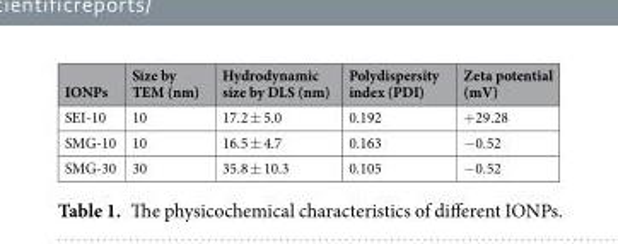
<table><thead><tr><td>IONPs</td><td>Size by TEM (nm)</td><td>Hydrodynamic size by DLS (nm)</td><td>Polydispersity index (PDI)</td><td>Zeta potential (mV)</td></tr></thead><tbody><tr><td>SEI-10</td><td>10</td><td>17.2 ± 5.0</td><td>0.192</td><td>+29.28</td></tr><tr><td>SMG-10</td><td>10</td><td>16.5 ± 4.7</td><td>0.163</td><td>−0.52</td></tr><tr><td>SMG-30</td><td>30</td><td>35.8 ± 10.3</td><td>0.105</td><td>−0.52</td></tr></tbody></table>